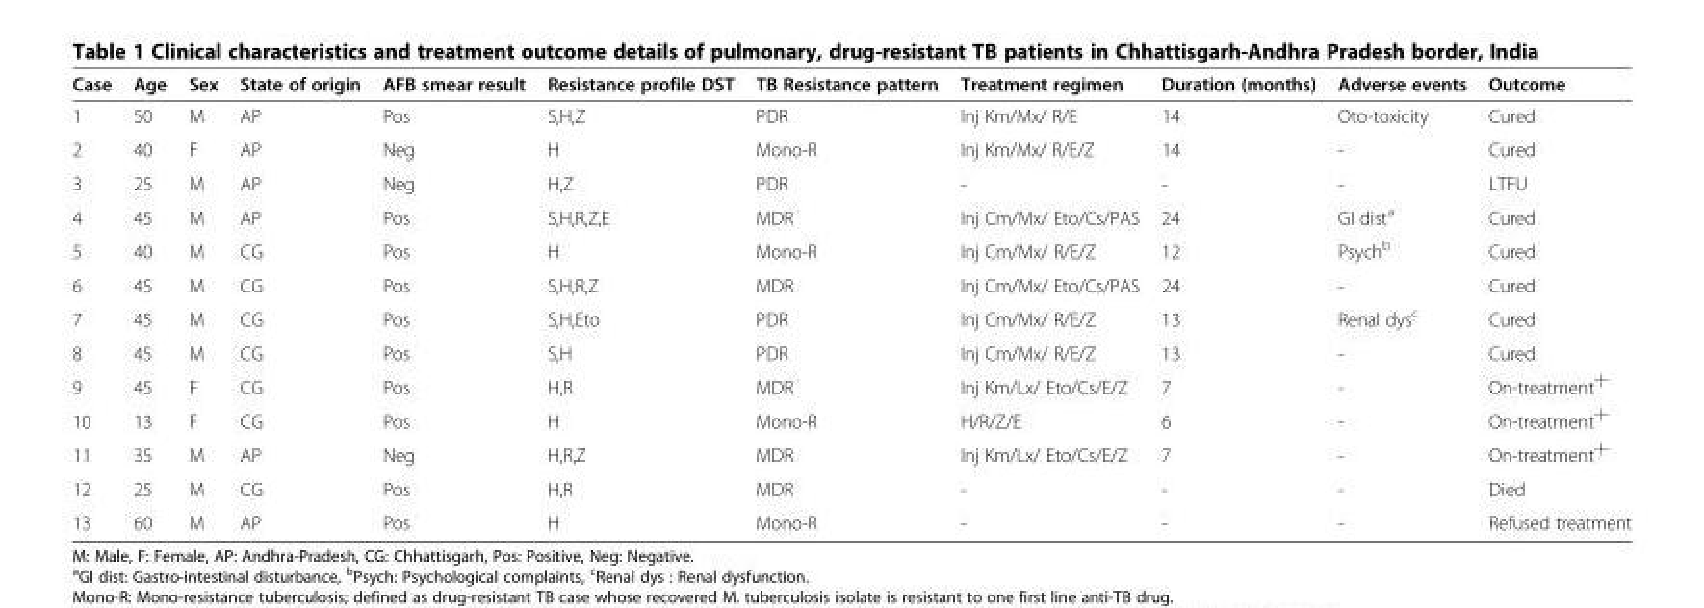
<table><thead><tr><td>Case</td><td>Age</td><td>Sex</td><td>State of origin</td><td>AFB smear result</td><td>Resistance profile DST</td><td>TB Resistance pattern</td><td>Treatment regimen</td><td>Duration (months)</td><td>Adverse events</td><td>Outcome</td></tr></thead><tbody><tr><td>1</td><td>50</td><td>M</td><td>AP</td><td>Pos</td><td>S,H,Z</td><td>PDR</td><td>Inj Km/Mx/ R/E</td><td>14</td><td>Oto-toxicity</td><td>Cured</td></tr><tr><td>2</td><td>40</td><td>F</td><td>AP</td><td>Neg</td><td>H</td><td>Mono-R</td><td>Inj Km/Mx/ R/E/Z</td><td>14</td><td>-</td><td>Cured</td></tr><tr><td>3</td><td>25</td><td>M</td><td>AP</td><td>Neg</td><td>H,Z</td><td>PDR</td><td>-</td><td>-</td><td>-</td><td>LTFU</td></tr><tr><td>4</td><td>45</td><td>M</td><td>AP</td><td>Pos</td><td>S,H,R,Z,E</td><td>MDR</td><td>Inj Cm/Mx/ Eto/Cs/PAS</td><td>24</td><td>GI dist<sup>a</sup></td><td>Cured</td></tr><tr><td>5</td><td>40</td><td>M</td><td>CG</td><td>Pos</td><td>H</td><td>Mono-R</td><td>Inj Cm/Mx/ R/E/Z</td><td>12</td><td>Psych<sup>b</sup></td><td>Cured</td></tr><tr><td>6</td><td>45</td><td>M</td><td>CG</td><td>Pos</td><td>S,H,R,Z</td><td>MDR</td><td>Inj Cm/Mx/ Eto/Cs/PAS</td><td>24</td><td>-</td><td>Cured</td></tr><tr><td>7</td><td>45</td><td>M</td><td>CG</td><td>Pos</td><td>S,H,Eto</td><td>PDR</td><td>Inj Cm/Mx/ R/E/Z</td><td>13</td><td>Renal dys<sup>c</sup></td><td>Cured</td></tr><tr><td>8</td><td>45</td><td>M</td><td>CG</td><td>Pos</td><td>S,H</td><td>PDR</td><td>Inj Cm/Mx/ R/E/Z</td><td>13</td><td>-</td><td>Cured</td></tr><tr><td>9</td><td>45</td><td>F</td><td>CG</td><td>Pos</td><td>H,R</td><td>MDR</td><td>Inj Km/Lx/ Eto/Cs/E/Z</td><td>7</td><td>-</td><td>On-treatment<sup>┼</sup></td></tr><tr><td>10</td><td>13</td><td>F</td><td>CG</td><td>Pos</td><td>H</td><td>Mono-R</td><td>H/R/Z/E</td><td>6</td><td>-</td><td>On-treatment<sup>┼</sup></td></tr><tr><td>11</td><td>35</td><td>M</td><td>AP</td><td>Neg</td><td>H,R,Z</td><td>MDR</td><td>Inj Km/Lx/ Eto/Cs/E/Z</td><td>7</td><td>-</td><td>On-treatment<sup>┼</sup></td></tr><tr><td>12</td><td>25</td><td>M</td><td>CG</td><td>Pos</td><td>H,R</td><td>MDR</td><td>-</td><td>-</td><td>-</td><td>Died</td></tr><tr><td>13</td><td>60</td><td>M</td><td>AP</td><td>Pos</td><td>H</td><td>Mono-R</td><td>-</td><td>-</td><td>-</td><td>Refused treatment</td></tr></tbody></table>